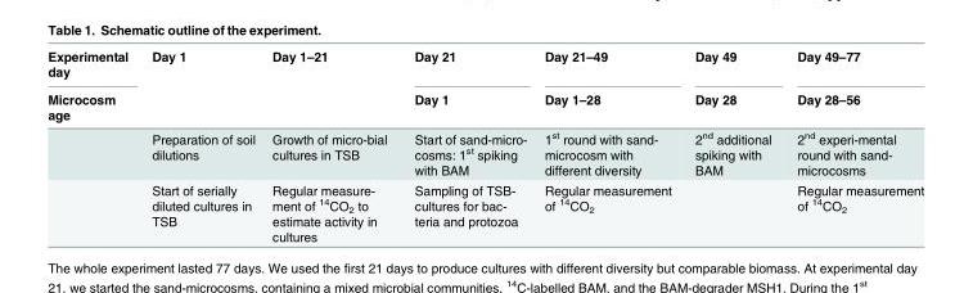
<table><thead><tr><td rowspan="2">Experimental day Microcosm age</td><td rowspan="2">Day 1</td><td rowspan="2">Day 1–21</td><td rowspan="2">Day 21 Day 1</td><td rowspan="2">Day 21–49 Day 1–28</td><td rowspan="2">Day 49 Day 28</td><td rowspan="2">Day 49–77 Day 28–56</td></tr><tr></tr></thead><tbody><tr><td></td><td>Preparation of soil dilutions</td><td>Growth of micro-bial cultures in TSB</td><td>Start of sand-micro- cosms: 1<sup>st</sup> spiking with BAM</td><td>1<sup>st</sup> round with sand- microcosm with different diversity</td><td>2<sup>nd</sup> additional spiking with BAM</td><td>2<sup>nd</sup> experi-mental round with sand- microcosms</td></tr><tr><td></td><td>Start of serially diluted cultures in TSB</td><td>Regular measure- ment of <sup>14</sup>CO<sub>2</sub> to estimate activity in cultures</td><td>Sampling of TSB- cultures for bac- teria and protozoa</td><td>Regular measurement of <sup>14</sup>CO<sub>2</sub></td><td></td><td>Regular measurement of <sup>14</sup>CO<sub>2</sub></td></tr></tbody></table>